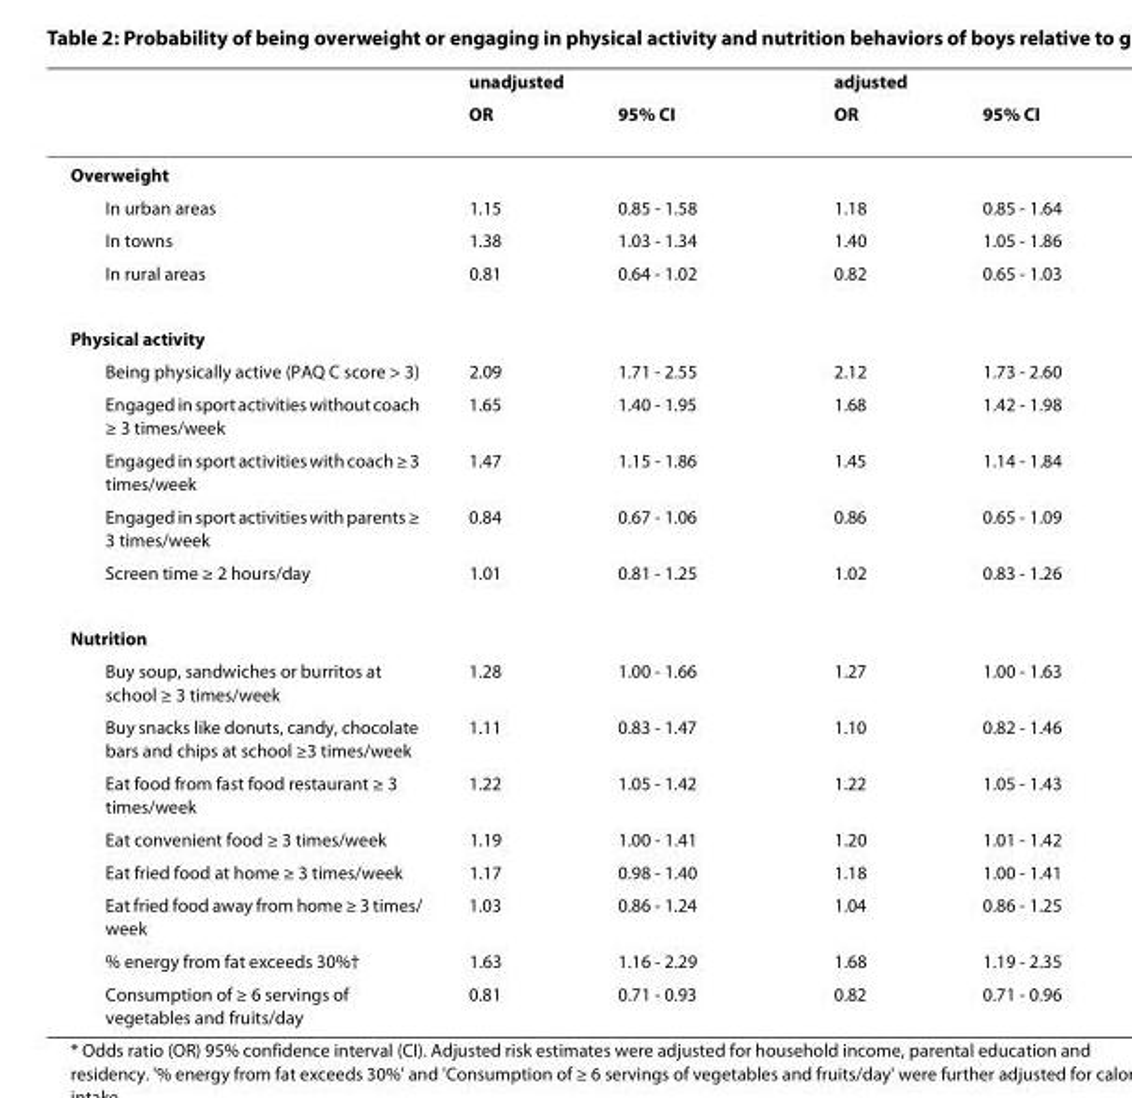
<table><thead><tr><td rowspan="2"></td><td colspan="2">unadjusted</td><td colspan="2">adjusted</td></tr><tr><td>OR</td><td>95% CI</td><td>OR</td><td>95% CI</td></tr></thead><tbody><tr><td colspan="5">Overweight</td></tr><tr><td>In urban areas</td><td>1.15</td><td>0.85 - 1.58</td><td>1.18</td><td>0.85 - 1.64</td></tr><tr><td>In towns</td><td>1.38</td><td>1.03 - 1.34</td><td>1.40</td><td>1.05 - 1.86</td></tr><tr><td>In rural areas</td><td>0.81</td><td>0.64 - 1.02</td><td>0.82</td><td>0.65 - 1.03</td></tr><tr><td colspan="5">Physical activity</td></tr><tr><td>Being physically active (PAQ C score &gt; 3)</td><td>2.09</td><td>1.71 - 2.55</td><td>2.12</td><td>1.73 - 2.60</td></tr><tr><td>Engaged in sport activities without coach ≥ 3 times/week</td><td>1.65</td><td>1.40 - 1.95</td><td>1.68</td><td>1.42 - 1.98</td></tr><tr><td>Engaged in sport activities with coach ≥ 3 times/week</td><td>1.47</td><td>1.15 - 1.86</td><td>1.45</td><td>1.14 - 1.84</td></tr><tr><td>Engaged in sport activities with parents ≥ 3 times/week</td><td>0.84</td><td>0.67 - 1.06</td><td>0.86</td><td>0.65 - 1.09</td></tr><tr><td>Screen time ≥ 2 hours/day</td><td>1.01</td><td>0.81 - 1.25</td><td>1.02</td><td>0.83 - 1.26</td></tr><tr><td colspan="5">Nutrition</td></tr><tr><td>Buy soup, sandwiches or burritos at school ≥ 3 times/week</td><td>1.28</td><td>1.00 - 1.66</td><td>1.27</td><td>1.00 - 1.63</td></tr><tr><td>Buy snacks like donuts, candy, chocolate bars and chips at school ≥3 times/week</td><td>1.11</td><td>0.83 - 1.47</td><td>1.10</td><td>0.82 - 1.46</td></tr><tr><td>Eat food from fast food restaurant ≥ 3 times/week</td><td>1.22</td><td>1.05 - 1.42</td><td>1.22</td><td>1.05 - 1.43</td></tr><tr><td>Eat convenient food ≥ 3 times/week</td><td>1.19</td><td>1.00 - 1.41</td><td>1.20</td><td>1.01 - 1.42</td></tr><tr><td>Eat fried food at home ≥ 3 times/week</td><td>1.17</td><td>0.98 - 1.40</td><td>1.18</td><td>1.00 - 1.41</td></tr><tr><td>Eat fried food away from home ≥ 3 times/ week</td><td>1.03</td><td>0.86 - 1.24</td><td>1.04</td><td>0.86 - 1.25</td></tr><tr><td>% energy from fat exceeds 30%†</td><td>1.63</td><td>1.16 - 2.29</td><td>1.68</td><td>1.19 - 2.35</td></tr><tr><td>Consumption of ≥ 6 servings of vegetables and fruits/day</td><td>0.81</td><td>0.71 - 0.93</td><td>0.82</td><td>0.71 - 0.96</td></tr></tbody></table>